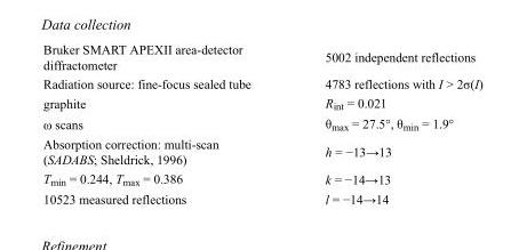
<table><tbody><tr><td>Bruker SMART APEXII area-detector diffractometer</td><td>5002 independent reflections</td></tr><tr><td>Radiation source: fine-focus sealed tube</td><td>4783 reflections with I &gt; 2σ(I)</td></tr><tr><td>graphite</td><td>R<sub>int</sub> = 0.021</td></tr><tr><td>ω scans</td><td>θ<sub>max</sub> = 27.5°, θ<sub>min</sub> = 1.9°</td></tr><tr><td>Absorption correction: multi-scan (SADABS; Sheldrick, 1996)</td><td>h = −13→13</td></tr><tr><td>T<sub>min</sub> = 0.244, T<sub>max</sub> = 0.386</td><td>k = −14→13</td></tr><tr><td>10523 measured reflections</td><td>l = −14→14</td></tr></tbody></table>